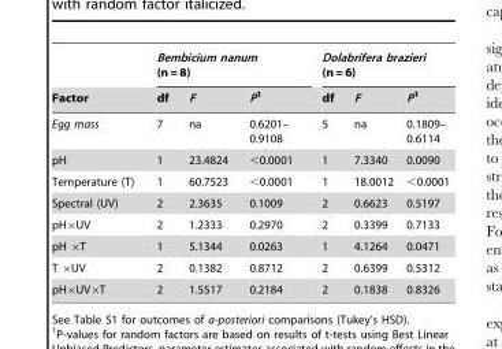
<table><thead><tr><td rowspan="2">Factor</td><td colspan="3">Bembicium nanum (n = 8)</td><td colspan="3">Dolabrifera brazieri (n = 6)</td></tr><tr><td>df</td><td>F</td><td>P1</td><td>df</td><td>F</td><td>P1</td></tr></thead><tbody><tr><td>Egg mass</td><td>7</td><td>na</td><td>0.6201– 0.9108</td><td>5</td><td>na</td><td>0.1809– 0.6114</td></tr><tr><td>pH</td><td>1</td><td>23.4824</td><td>&lt;0.0001</td><td>1</td><td>7.3340</td><td>0.0090</td></tr><tr><td>Temperature (T)</td><td>1</td><td>60.7523</td><td>&lt;0.0001</td><td>1</td><td>18.0012</td><td>&lt;0.0001</td></tr><tr><td>Spectral (UV)</td><td>2</td><td>2.3635</td><td>0.1009</td><td>2</td><td>0.6623</td><td>0.5197</td></tr><tr><td>pH×UV</td><td>2</td><td>1.2333</td><td>0.2970</td><td>2</td><td>0.3399</td><td>0.7133</td></tr><tr><td>pH ×T</td><td>1</td><td>5.1344</td><td>0.0263</td><td>1</td><td>4.1264</td><td>0.0471</td></tr><tr><td>T ×UV</td><td>2</td><td>0.1382</td><td>0.8712</td><td>2</td><td>0.6399</td><td>0.5312</td></tr><tr><td>pH×UV×T</td><td>2</td><td>1.5517</td><td>0.2184</td><td>2</td><td>0.1838</td><td>0.8326</td></tr></tbody></table>